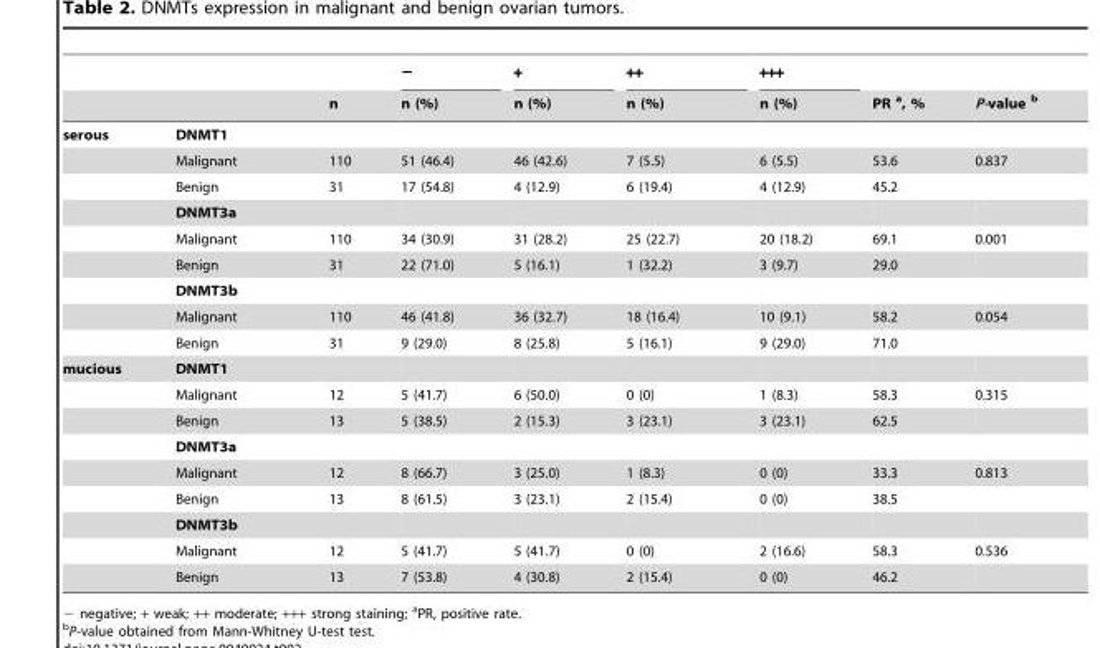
<table><thead><tr><td rowspan="2"></td><td rowspan="2"></td><td rowspan="2">n</td><td rowspan="2">− n (%)</td><td rowspan="2">+ n (%)</td><td rowspan="2">++ n (%)</td><td rowspan="2">+++ n (%)</td><td rowspan="2">PR <sup>a</sup>, %</td><td rowspan="2">P-value b</td></tr><tr></tr></thead><tbody><tr><td rowspan="9">serous</td><td>DNMT1</td><td></td><td></td><td></td><td></td><td></td><td></td><td></td></tr><tr><td>Malignant</td><td>110</td><td>51 (46.4)</td><td>46 (42.6)</td><td>7 (5.5)</td><td>6 (5.5)</td><td>53.6</td><td>0.837</td></tr><tr><td>Benign</td><td>31</td><td>17 (54.8)</td><td>4 (12.9)</td><td>6 (19.4)</td><td>4 (12.9)</td><td>45.2</td><td></td></tr><tr><td>DNMT3a</td><td></td><td></td><td></td><td></td><td></td><td></td><td></td></tr><tr><td>Malignant</td><td>110</td><td>34 (30.9)</td><td>31 (28.2)</td><td>25 (22.7)</td><td>20 (18.2)</td><td>69.1</td><td>0.001</td></tr><tr><td>Benign</td><td>31</td><td>22 (71.0)</td><td>5 (16.1)</td><td>1 (32.2)</td><td>3 (9.7)</td><td>29.0</td><td></td></tr><tr><td>DNMT3b</td><td></td><td></td><td></td><td></td><td></td><td></td><td></td></tr><tr><td>Malignant</td><td>110</td><td>46 (41.8)</td><td>36 (32.7)</td><td>18 (16.4)</td><td>10 (9.1)</td><td>58.2</td><td>0.054</td></tr><tr><td>Benign</td><td>31</td><td>9 (29.0)</td><td>8 (25.8)</td><td>5 (16.1)</td><td>9 (29.0)</td><td>71.0</td><td></td></tr><tr><td rowspan="9">mucious</td><td>DNMT1</td><td></td><td></td><td></td><td></td><td></td><td></td><td></td></tr><tr><td>Malignant</td><td>12</td><td>5 (41.7)</td><td>6 (50.0)</td><td>0 (0)</td><td>1 (8.3)</td><td>58.3</td><td>0.315</td></tr><tr><td>Benign</td><td>13</td><td>5 (38.5)</td><td>2 (15.3)</td><td>3 (23.1)</td><td>3 (23.1)</td><td>62.5</td><td></td></tr><tr><td>DNMT3a</td><td></td><td></td><td></td><td></td><td></td><td></td><td></td></tr><tr><td>Malignant</td><td>12</td><td>8 (66.7)</td><td>3 (25.0)</td><td>1 (8.3)</td><td>0 (0)</td><td>33.3</td><td>0.813</td></tr><tr><td>Benign</td><td>13</td><td>8 (61.5)</td><td>3 (23.1)</td><td>2 (15.4)</td><td>0 (0)</td><td>38.5</td><td></td></tr><tr><td>DNMT3b</td><td></td><td></td><td></td><td></td><td></td><td></td><td></td></tr><tr><td>Malignant</td><td>12</td><td>5 (41.7)</td><td>5 (41.7)</td><td>0 (0)</td><td>2 (16.6)</td><td>58.3</td><td>0.536</td></tr><tr><td>Benign</td><td>13</td><td>7 (53.8)</td><td>4 (30.8)</td><td>2 (15.4)</td><td>0 (0)</td><td>46.2</td><td></td></tr></tbody></table>